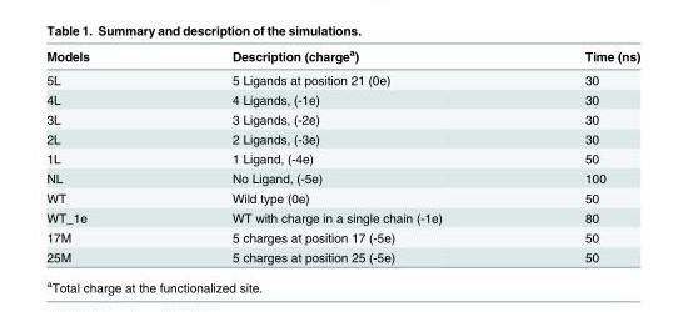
<table><thead><tr><td>Models</td><td>Description (charge<sup>a</sup>)</td><td>Time (ns)</td></tr></thead><tbody><tr><td>5L</td><td>5 Ligands at position 21 (0e)</td><td>30</td></tr><tr><td>4L</td><td>4 Ligands, (-1e)</td><td>30</td></tr><tr><td>3L</td><td>3 Ligands, (-2e)</td><td>30</td></tr><tr><td>2L</td><td>2 Ligands, (-3e)</td><td>30</td></tr><tr><td>1L</td><td>1 Ligand, (-4e)</td><td>50</td></tr><tr><td>NL</td><td>No Ligand, (-5e)</td><td>100</td></tr><tr><td>WT</td><td>Wild type (0e)</td><td>50</td></tr><tr><td>WT_1e</td><td>WT with charge in a single chain (-1e)</td><td>80</td></tr><tr><td>17M</td><td>5 charges at position 17 (-5e)</td><td>50</td></tr><tr><td>25M</td><td>5 charges at position 25 (-5e)</td><td>50</td></tr></tbody></table>